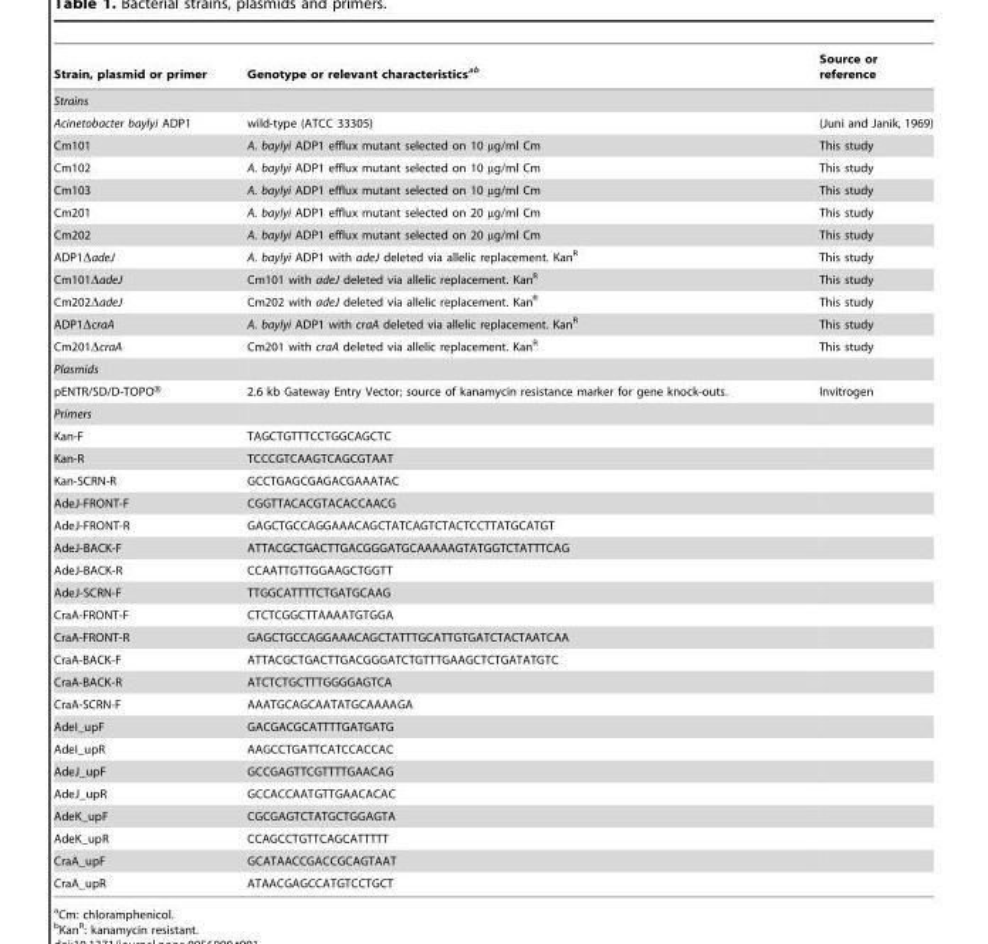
<table><thead><tr><td>Strain, plasmid or primer</td><td>Genotype or relevant characteristics<sup>ab</sup></td><td>Source or reference</td></tr></thead><tbody><tr><td colspan="3">Strains</td></tr><tr><td>Acinetobacter baylyi ADP1</td><td>wild-type (ATCC 33305)</td><td>(Juni and Janik, 1969)</td></tr><tr><td>Cm101</td><td>A. baylyi ADP1 efflux mutant selected on 10 µg/ml Cm</td><td>This study</td></tr><tr><td>Cm102</td><td>A. baylyi ADP1 efflux mutant selected on 10 µg/ml Cm</td><td>This study</td></tr><tr><td>Cm103</td><td>A. baylyi ADP1 efflux mutant selected on 10 µg/ml Cm</td><td>This study</td></tr><tr><td>Cm201</td><td>A. baylyi ADP1 efflux mutant selected on 20 µg/ml Cm</td><td>This study</td></tr><tr><td>Cm202</td><td>A. baylyi ADP1 efflux mutant selected on 20 µg/ml Cm</td><td>This study</td></tr><tr><td>ADP1ΔadeJ</td><td>A. baylyi ADP1 with adeJ deleted via allelic replacement. Kan<sup>R</sup></td><td>This study</td></tr><tr><td>Cm101ΔadeJ</td><td>Cm101 with adeJ deleted via allelic replacement. Kan<sup>R</sup></td><td>This study</td></tr><tr><td>Cm202ΔadeJ</td><td>Cm202 with adeJ deleted via allelic replacement. Kan<sup>R</sup></td><td>This study</td></tr><tr><td>ADP1ΔcraA</td><td>A. baylyi ADP1 with craA deleted via allelic replacement. Kan<sup>R</sup></td><td>This study</td></tr><tr><td>Cm201ΔcraA</td><td>Cm201 with craA deleted via allelic replacement. Kan<sup>R</sup></td><td>This study</td></tr><tr><td colspan="3">Plasmids</td></tr><tr><td>pENTR/SD/D-TOPO®</td><td>2.6 kb Gateway Entry Vector; source of kanamycin resistance marker for gene knock-outs.</td><td>Invitrogen</td></tr><tr><td colspan="3">Primers</td></tr><tr><td>Kan-F</td><td>TAGCTGTTTCCTGGCAGCTC</td><td></td></tr><tr><td>Kan-R</td><td>TCCCGTCAAGTCAGCGTAAT</td><td></td></tr><tr><td>Kan-SCRN-R</td><td>GCCTGAGCGAGACGAAATAC</td><td></td></tr><tr><td>AdeJ-FRONT-F</td><td>CGGTTACACGTACACCAACG</td><td></td></tr><tr><td>AdeJ-FRONT-R</td><td>GAGCTGCCAGGAAACAGCTATCAGTCTACTCCTTATGCATGT</td><td></td></tr><tr><td>AdeJ-BACK-F</td><td>ATTACGCTGACTTGACGGGATGCAAAAAGTATGGTCTATTTCAG</td><td></td></tr><tr><td>AdeJ-BACK-R</td><td>CCAATTGTTGGAAGCTGGTT</td><td></td></tr><tr><td>AdeJ-SCRN-F</td><td>TTGGCATTTTCTGATGCAAG</td><td></td></tr><tr><td>CraA-FRONT-F</td><td>CTCTCGGCTTAAAATGTGGA</td><td></td></tr><tr><td>CraA-FRONT-R</td><td>GAGCTGCCAGGAAACAGCTATTTGCATTGTGATCTACTAATCAA</td><td></td></tr><tr><td>CraA-BACK-F</td><td>ATTACGCTGACTTGACGGGATCTGTTTGAAGCTCTGATATGTC</td><td></td></tr><tr><td>CraA-BACK-R</td><td>ATCTCTGCTTTGGGGAGTCA</td><td></td></tr><tr><td>CraA-SCRN-F</td><td>AAATGCAGCAATATGCAAAAGA</td><td></td></tr><tr><td>AdeI_upF</td><td>GACGACGCATTTTGATGATG</td><td></td></tr><tr><td>AdeI_upR</td><td>AAGCCTGATTCATCCACCAC</td><td></td></tr><tr><td>AdeJ_upF</td><td>GCCGAGTTCGTTTTGAACAG</td><td></td></tr><tr><td>AdeJ_upR</td><td>GCCACCAATGTTGAACACAC</td><td></td></tr><tr><td>AdeK_upF</td><td>CGCGAGTCTATGCTGGAGTA</td><td></td></tr><tr><td>AdeK_upR</td><td>CCAGCCTGTTCAGCATTTTT</td><td></td></tr><tr><td>CraA_upF</td><td>GCATAACCGACCGCAGTAAT</td><td></td></tr><tr><td>CraA_upR</td><td>ATAACGAGCCATGTCCTGCT</td><td></td></tr></tbody></table>